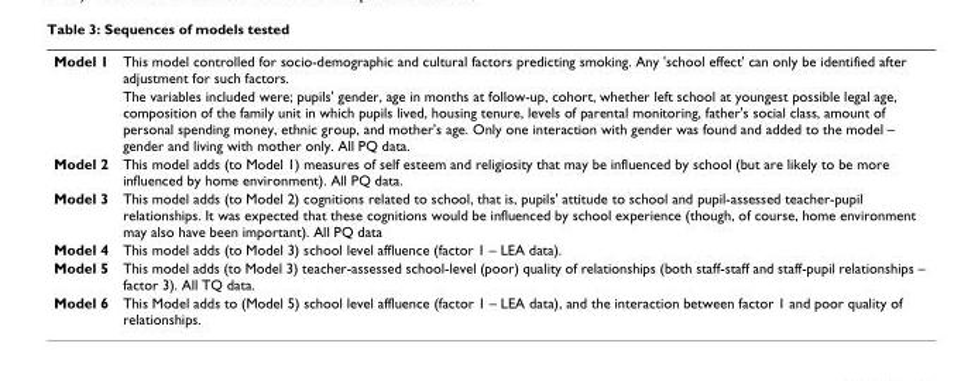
<table><tbody><tr><td rowspan="2">Model 1</td><td>This model controlled for socio-demographic and cultural factors predicting smoking. Any &#x27;school effect&#x27; can only be identified after adjustment for such factors.</td></tr><tr><td>The variables included were; pupils&#x27; gender, age in months at follow-up, cohort, whether left school at youngest possible legal age, composition of the family unit in which pupils lived, housing tenure, levels of parental monitoring, father&#x27;s social class, amount of personal spending money, ethnic group, and mother&#x27;s age. Only one interaction with gender was found and added to the model – gender and living with mother only. All PQ data.</td></tr><tr><td>Model 2</td><td>This model adds (to Model 1) measures of self esteem and religiosity that may be influenced by school (but are likely to be more influenced by home environment). All PQ data.</td></tr><tr><td>Model 3</td><td>This model adds (to Model 2) cognitions related to school, that is, pupils&#x27; attitude to school and pupil-assessed teacher-pupil relationships. It was expected that these cognitions would be influenced by school experience (though, of course, home environment may also have been important). All PQ data</td></tr><tr><td>Model 4</td><td>This model adds (to Model 3) school level affluence (factor 1 – LEA data).</td></tr><tr><td>Model 5</td><td>This model adds (to Model 3) teacher-assessed school-level (poor) quality of relationships (both staff-staff and staff-pupil relationships – factor 3). All TQ data.</td></tr><tr><td>Model 6</td><td>This Model adds to (Model 5) school level affluence (factor 1 – LEA data), and the interaction between factor 1 and poor quality of relationships.</td></tr></tbody></table>